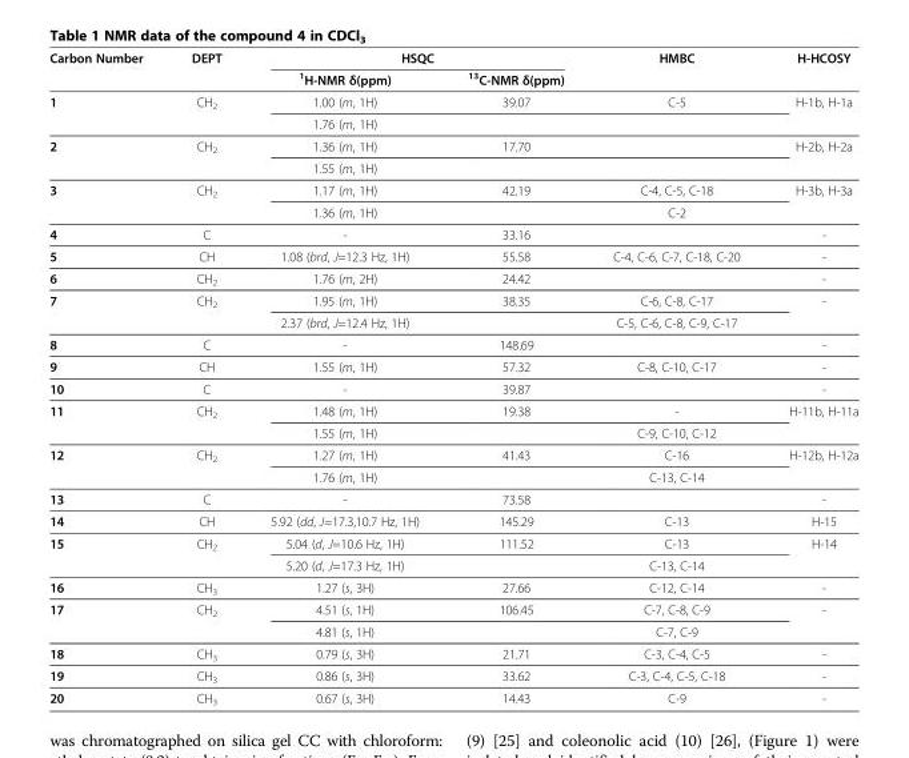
<table><thead><tr><td rowspan="2">Carbon Number</td><td rowspan="2">DEPT</td><td colspan="2">HSQC</td><td rowspan="2">HMBC</td><td rowspan="2">H-HCOSY</td></tr><tr><td><sup>1</sup>H-NMR δ(ppm)</td><td><sup>13</sup>C-NMR δ(ppm)</td></tr></thead><tbody><tr><td rowspan="2">1</td><td>CH<sub>2</sub></td><td>1.00 (m, 1H)</td><td>39.07</td><td>C-5</td><td>H-1b, H-1a</td></tr><tr><td></td><td>1.76 (m, 1H)</td><td></td><td></td><td></td></tr><tr><td rowspan="2">2</td><td>CH<sub>2</sub></td><td>1.36 (m, 1H)</td><td>17.70</td><td></td><td>H-2b, H-2a</td></tr><tr><td></td><td>1.55 (m, 1H)</td><td></td><td></td><td></td></tr><tr><td rowspan="2">3</td><td>CH<sub>2</sub></td><td>1.17 (m, 1H)</td><td>42.19</td><td>C-4, C-5, C-18</td><td>H-3b, H-3a</td></tr><tr><td></td><td>1.36 (m, 1H)</td><td></td><td>C-2</td><td></td></tr><tr><td>4</td><td>C</td><td>-</td><td>33.16</td><td></td><td>-</td></tr><tr><td>5</td><td>CH</td><td>1.08 (brd, J=12.3 Hz, 1H)</td><td>55.58</td><td>C-4, C-6, C-7, C-18, C-20</td><td>-</td></tr><tr><td>6</td><td>CH<sub>2</sub></td><td>1.76 (m, 2H)</td><td>24.42</td><td></td><td>-</td></tr><tr><td rowspan="2">7</td><td>CH<sub>2</sub></td><td>1.95 (m, 1H)</td><td>38.35</td><td>C-6, C-8, C-17</td><td>-</td></tr><tr><td></td><td>2.37 (brd, J=12.4 Hz, 1H)</td><td></td><td>C-5, C-6, C-8, C-9, C-17</td><td></td></tr><tr><td>8</td><td>C</td><td>-</td><td>148.69</td><td></td><td>-</td></tr><tr><td>9</td><td>CH</td><td>1.55 (m, 1H)</td><td>57.32</td><td>C-8, C-10, C-17</td><td>-</td></tr><tr><td>10</td><td>C</td><td>-</td><td>39.87</td><td></td><td>-</td></tr><tr><td rowspan="2">11</td><td>CH<sub>2</sub></td><td>1.48 (m, 1H)</td><td>19.38</td><td>-</td><td>H-11b, H-11a</td></tr><tr><td></td><td>1.55 (m, 1H)</td><td></td><td>C-9, C-10, C-12</td><td></td></tr><tr><td rowspan="2">12</td><td>CH<sub>2</sub></td><td>1.27 (m, 1H)</td><td>41.43</td><td>C-16</td><td>H-12b, H-12a</td></tr><tr><td></td><td>1.76 (m, 1H)</td><td></td><td>C-13, C-14</td><td></td></tr><tr><td>13</td><td>C</td><td>-</td><td>73.58</td><td></td><td>-</td></tr><tr><td>14</td><td>CH</td><td>5.92 (dd, J=17.3,10.7 Hz, 1H)</td><td>145.29</td><td>C-13</td><td>H-15</td></tr><tr><td rowspan="2">15</td><td>CH<sub>2</sub></td><td>5.04 (d, J=10.6 Hz, 1H)</td><td>111.52</td><td>C-13</td><td>H-14</td></tr><tr><td></td><td>5.20 (d, J=17.3 Hz, 1H)</td><td></td><td>C-13, C-14</td><td></td></tr><tr><td>16</td><td>CH<sub>3</sub></td><td>1.27 (s, 3H)</td><td>27.66</td><td>C-12, C-14</td><td>-</td></tr><tr><td rowspan="2">17</td><td>CH<sub>2</sub></td><td>4.51 (s, 1H)</td><td>106.45</td><td>C-7, C-8, C-9</td><td>-</td></tr><tr><td></td><td>4.81 (s, 1H)</td><td></td><td>C-7, C-9</td><td></td></tr><tr><td>18</td><td>CH<sub>3</sub></td><td>0.79 (s, 3H)</td><td>21.71</td><td>C-3, C-4, C-5</td><td>-</td></tr><tr><td>19</td><td>CH<sub>3</sub></td><td>0.86 (s, 3H)</td><td>33.62</td><td>C-3, C-4, C-5, C-18</td><td>-</td></tr><tr><td>20</td><td>CH<sub>3</sub></td><td>0.67 (s, 3H)</td><td>14.43</td><td>C-9</td><td>-</td></tr></tbody></table>